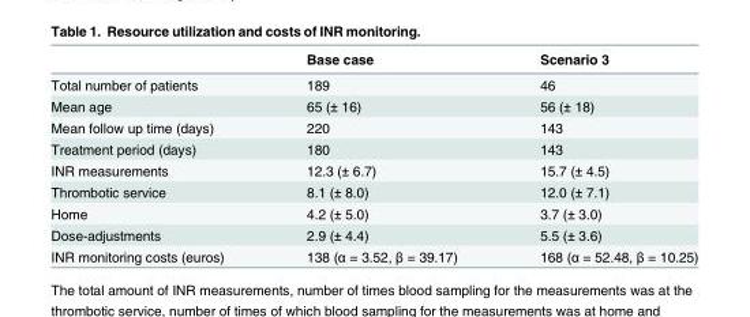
<table><thead><tr><td></td><td>Base case</td><td>Scenario 3</td></tr></thead><tbody><tr><td>Total number of patients</td><td>189</td><td>46</td></tr><tr><td>Mean age</td><td>65 (± 16)</td><td>56 (± 18)</td></tr><tr><td>Mean follow up time (days)</td><td>220</td><td>143</td></tr><tr><td>Treatment period (days)</td><td>180</td><td>143</td></tr><tr><td>INR measurements</td><td>12.3 (± 6.7)</td><td>15.7 (± 4.5)</td></tr><tr><td>Thrombotic service</td><td>8.1 (± 8.0)</td><td>12.0 (± 7.1)</td></tr><tr><td>Home</td><td>4.2 (± 5.0)</td><td>3.7 (± 3.0)</td></tr><tr><td>Dose-adjustments</td><td>2.9 (± 4.4)</td><td>5.5 (± 3.6)</td></tr><tr><td>INR monitoring costs (euros)</td><td>138 (α = 3.52, β = 39.17)</td><td>168 (α = 52.48, β = 10.25)</td></tr></tbody></table>